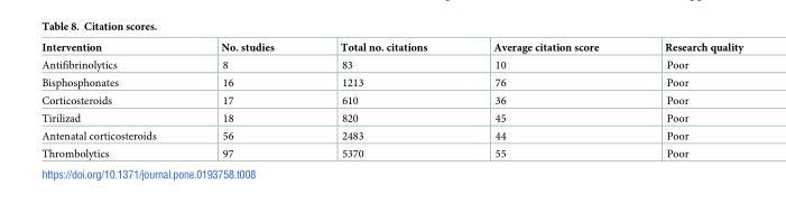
<table><thead><tr><td>Intervention</td><td>No. studies</td><td>Total no. citations</td><td>Average citation score</td><td>Research quality</td></tr></thead><tbody><tr><td>Antifibrinolytics</td><td>8</td><td>83</td><td>10</td><td>Poor</td></tr><tr><td>Bisphosphonates</td><td>16</td><td>1213</td><td>76</td><td>Poor</td></tr><tr><td>Corticosteroids</td><td>17</td><td>610</td><td>36</td><td>Poor</td></tr><tr><td>Tirilizad</td><td>18</td><td>820</td><td>45</td><td>Poor</td></tr><tr><td>Antenatal corticosteroids</td><td>56</td><td>2483</td><td>44</td><td>Poor</td></tr><tr><td>Thrombolytics</td><td>97</td><td>5370</td><td>55</td><td>Poor</td></tr></tbody></table>